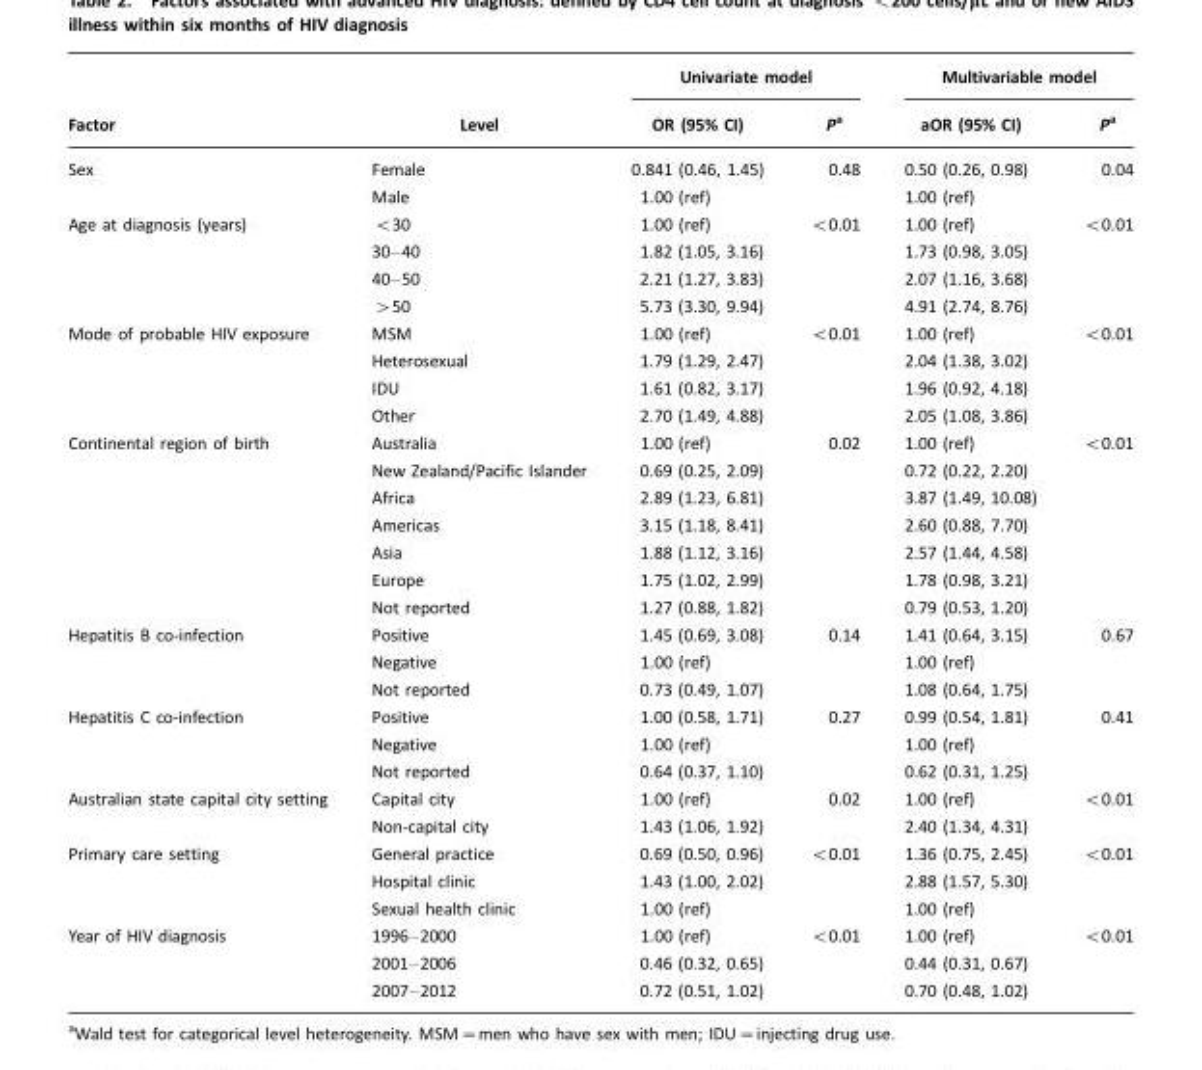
<table><thead><tr><td rowspan="2">Factor</td><td rowspan="2">Level</td><td colspan="2">Univariate model</td><td colspan="2">Multivariable model</td></tr><tr><td>OR (95% CI)</td><td>P<sup>a</sup></td><td>aOR (95% CI)</td><td>P<sup>a</sup></td></tr></thead><tbody><tr><td rowspan="2">Sex</td><td>Female</td><td>0.841 (0.46, 1.45)</td><td>0.48</td><td>0.50 (0.26, 0.98)</td><td>0.04</td></tr><tr><td>Male</td><td>1.00 (ref)</td><td></td><td>1.00 (ref)</td><td></td></tr><tr><td rowspan="4">Age at diagnosis (years)</td><td>&lt;30</td><td>1.00 (ref)</td><td>&lt;0.01</td><td>1.00 (ref)</td><td>&lt;0.01</td></tr><tr><td>30–40</td><td>1.82 (1.05, 3.16)</td><td></td><td>1.73 (0.98, 3.05)</td><td></td></tr><tr><td>40–50</td><td>2.21 (1.27, 3.83)</td><td></td><td>2.07 (1.16, 3.68)</td><td></td></tr><tr><td>&gt;50</td><td>5.73 (3.30, 9.94)</td><td></td><td>4.91 (2.74, 8.76)</td><td></td></tr><tr><td rowspan="4">Mode of probable HIV exposure</td><td>MSM</td><td>1.00 (ref)</td><td>&lt;0.01</td><td>1.00 (ref)</td><td>&lt;0.01</td></tr><tr><td>Heterosexual</td><td>1.79 (1.29, 2.47)</td><td></td><td>2.04 (1.38, 3.02)</td><td></td></tr><tr><td>IDU</td><td>1.61 (0.82, 3.17)</td><td></td><td>1.96 (0.92, 4.18)</td><td></td></tr><tr><td>Other</td><td>2.70 (1.49, 4.88)</td><td></td><td>2.05 (1.08, 3.86)</td><td></td></tr><tr><td rowspan="7">Continental region of birth</td><td>Australia</td><td>1.00 (ref)</td><td>0.02</td><td>1.00 (ref)</td><td>&lt;0.01</td></tr><tr><td>New Zealand/Pacific Islander</td><td>0.69 (0.25, 2.09)</td><td></td><td>0.72 (0.22, 2.20)</td><td></td></tr><tr><td>Africa</td><td>2.89 (1.23, 6.81)</td><td></td><td>3.87 (1.49, 10.08)</td><td></td></tr><tr><td>Americas</td><td>3.15 (1.18, 8.41)</td><td></td><td>2.60 (0.88, 7.70)</td><td></td></tr><tr><td>Asia</td><td>1.88 (1.12, 3.16)</td><td></td><td>2.57 (1.44, 4.58)</td><td></td></tr><tr><td>Europe</td><td>1.75 (1.02, 2.99)</td><td></td><td>1.78 (0.98, 3.21)</td><td></td></tr><tr><td>Not reported</td><td>1.27 (0.88, 1.82)</td><td></td><td>0.79 (0.53, 1.20)</td><td></td></tr><tr><td rowspan="3">Hepatitis B co-infection</td><td>Positive</td><td>1.45 (0.69, 3.08)</td><td>0.14</td><td>1.41 (0.64, 3.15)</td><td>0.67</td></tr><tr><td>Negative</td><td>1.00 (ref)</td><td></td><td>1.00 (ref)</td><td></td></tr><tr><td>Not reported</td><td>0.73 (0.49, 1.07)</td><td></td><td>1.08 (0.64, 1.75)</td><td></td></tr><tr><td rowspan="3">Hepatitis C co-infection</td><td>Positive</td><td>1.00 (0.58, 1.71)</td><td>0.27</td><td>0.99 (0.54, 1.81)</td><td>0.41</td></tr><tr><td>Negative</td><td>1.00 (ref)</td><td></td><td>1.00 (ref)</td><td></td></tr><tr><td>Not reported</td><td>0.64 (0.37, 1.10)</td><td></td><td>0.62 (0.31, 1.25)</td><td></td></tr><tr><td rowspan="2">Australian state capital city setting</td><td>Capital city</td><td>1.00 (ref)</td><td>0.02</td><td>1.00 (ref)</td><td>&lt;0.01</td></tr><tr><td>Non-capital city</td><td>1.43 (1.06, 1.92)</td><td></td><td>2.40 (1.34, 4.31)</td><td></td></tr><tr><td rowspan="3">Primary care setting</td><td>General practice</td><td>0.69 (0.50, 0.96)</td><td>&lt;0.01</td><td>1.36 (0.75, 2.45)</td><td>&lt;0.01</td></tr><tr><td>Hospital clinic</td><td>1.43 (1.00, 2.02)</td><td></td><td>2.88 (1.57, 5.30)</td><td></td></tr><tr><td>Sexual health clinic</td><td>1.00 (ref)</td><td></td><td>1.00 (ref)</td><td></td></tr><tr><td rowspan="3">Year of HIV diagnosis</td><td>1996–2000</td><td>1.00 (ref)</td><td>&lt;0.01</td><td>1.00 (ref)</td><td>&lt;0.01</td></tr><tr><td>2001–2006</td><td>0.46 (0.32, 0.65)</td><td></td><td>0.44 (0.31, 0.67)</td><td></td></tr><tr><td>2007–2012</td><td>0.72 (0.51, 1.02)</td><td></td><td>0.70 (0.48, 1.02)</td><td></td></tr></tbody></table>